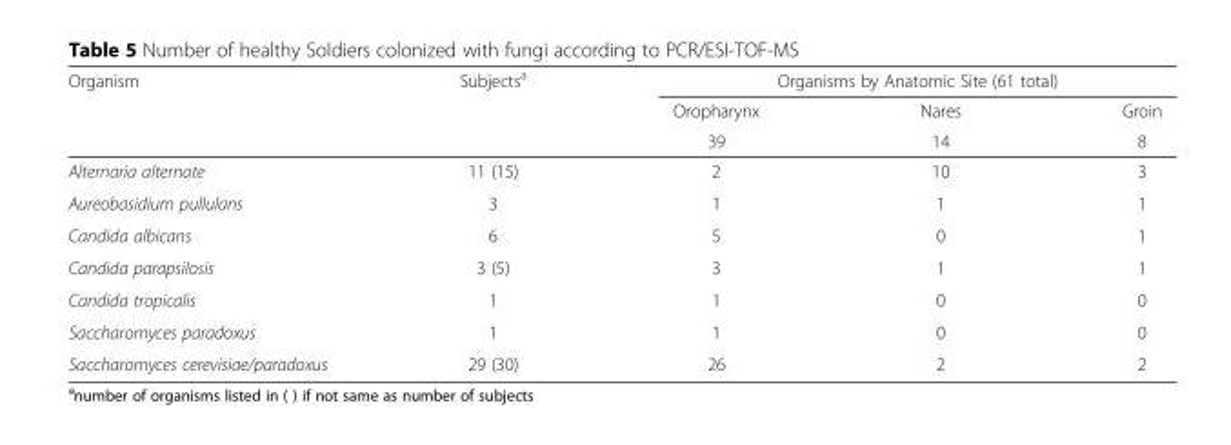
<table><thead><tr><td rowspan="3">Organism</td><td rowspan="3">Subjects<sup>a</sup></td><td colspan="3">Organisms by Anatomic Site (61 total)</td></tr><tr><td rowspan="2">Oropharynx 39</td><td rowspan="2">Nares 14</td><td rowspan="2">Groin 8</td></tr><tr></tr></thead><tbody><tr><td>Alternaria alternate</td><td>11 (15)</td><td>2</td><td>10</td><td>3</td></tr><tr><td>Aureobasidium pullulans</td><td>3</td><td>1</td><td>1</td><td>1</td></tr><tr><td>Candida albicans</td><td>6</td><td>5</td><td>0</td><td>1</td></tr><tr><td>Candida parapsilosis</td><td>3 (5)</td><td>3</td><td>1</td><td>1</td></tr><tr><td>Candida tropicalis</td><td>1</td><td>1</td><td>0</td><td>0</td></tr><tr><td>Saccharomyces paradoxus</td><td>1</td><td>1</td><td>0</td><td>0</td></tr><tr><td>Saccharomyces cerevisiae/paradoxus</td><td>29 (30)</td><td>26</td><td>2</td><td>2</td></tr></tbody></table>